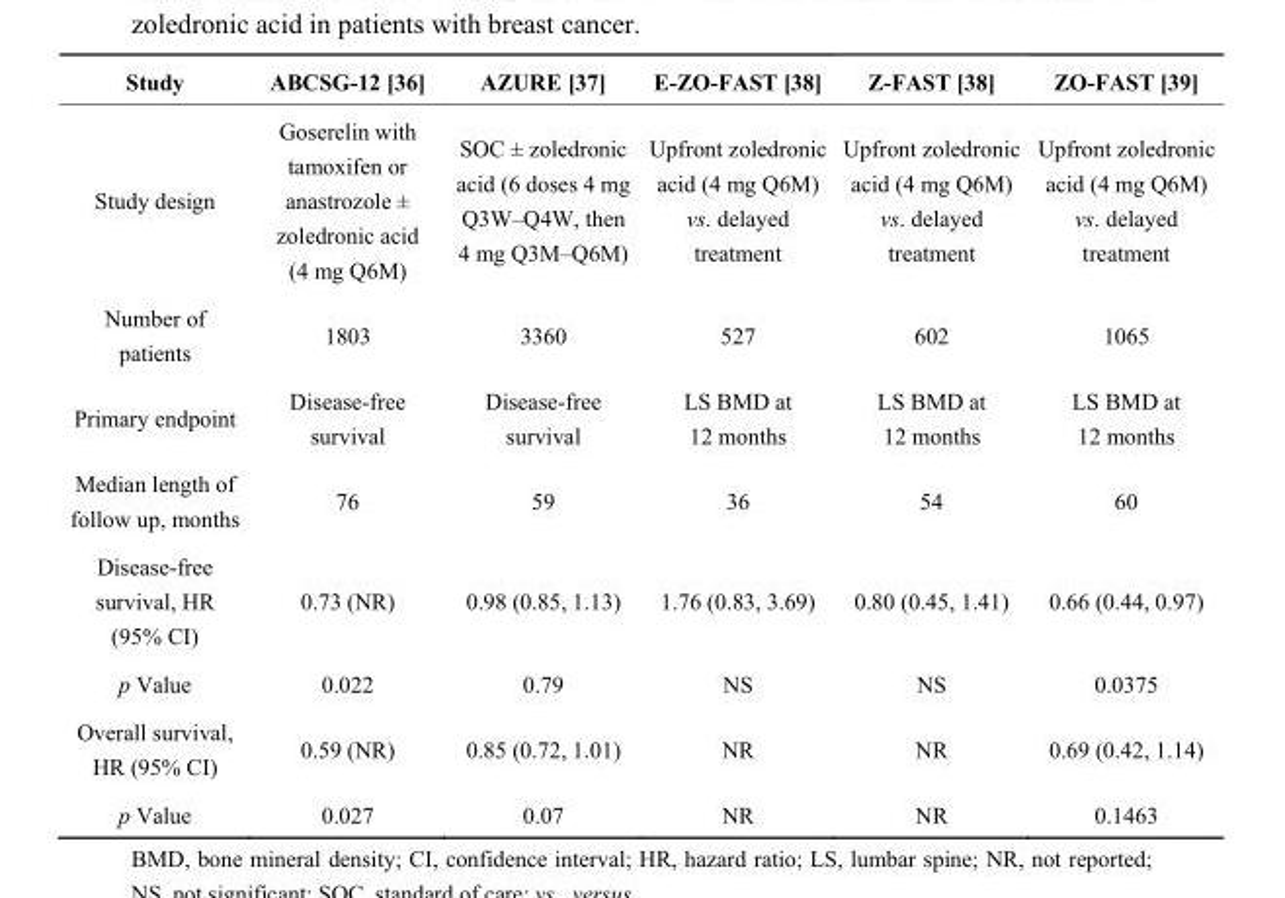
<table><thead><tr><td>Study</td><td>ABCSG-12 [36]</td><td>AZURE [37]</td><td>E-ZO-FAST [38]</td><td>Z-FAST [38]</td><td>ZO-FAST [39]</td></tr></thead><tbody><tr><td>Study design</td><td>Goserelin with tamoxifen or anastrozole ± zoledronic acid (4 mg Q6M)</td><td>SOC ± zoledronic acid (6 doses 4 mg Q3W–Q4W, then 4 mg Q3M–Q6M)</td><td>Upfront zoledronic acid (4 mg Q6M) vs. delayed treatment</td><td>Upfront zoledronic acid (4 mg Q6M) vs. delayed treatment</td><td>Upfront zoledronic acid (4 mg Q6M) vs. delayed treatment</td></tr><tr><td>Number of patients</td><td>1803</td><td>3360</td><td>527</td><td>602</td><td>1065</td></tr><tr><td>Primary endpoint</td><td>Disease-free survival</td><td>Disease-free survival</td><td>LS BMD at 12 months</td><td>LS BMD at 12 months</td><td>LS BMD at 12 months</td></tr><tr><td>Median length of follow up, months</td><td>76</td><td>59</td><td>36</td><td>54</td><td>60</td></tr><tr><td>Disease-free survival, HR (95% CI)</td><td>0.73 (NR)</td><td>0.98 (0.85, 1.13)</td><td>1.76 (0.83, 3.69)</td><td>0.80 (0.45, 1.41)</td><td>0.66 (0.44, 0.97)</td></tr><tr><td>p Value</td><td>0.022</td><td>0.79</td><td>NS</td><td>NS</td><td>0.0375</td></tr><tr><td>Overall survival, HR (95% CI)</td><td>0.59 (NR)</td><td>0.85 (0.72, 1.01)</td><td>NR</td><td>NR</td><td>0.69 (0.42, 1.14)</td></tr><tr><td>p Value</td><td>0.027</td><td>0.07</td><td>NR</td><td>NR</td><td>0.1463</td></tr></tbody></table>